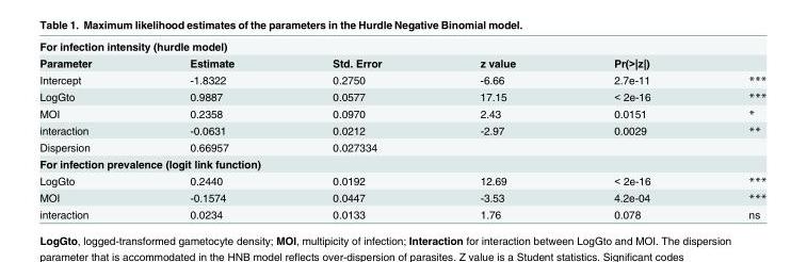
<table><tbody><tr><td colspan="6">For infection intensity (hurdle model)</td></tr><tr><td>Parameter</td><td>Estimate</td><td>Std. Error</td><td>z value</td><td>Pr(&gt;|z|)</td><td></td></tr><tr><td>Intercept</td><td>-1.8322</td><td>0.2750</td><td>-6.66</td><td>2.7e-11</td><td>***</td></tr><tr><td>LogGto</td><td>0.9887</td><td>0.0577</td><td>17.15</td><td>&lt; 2e-16</td><td>***</td></tr><tr><td>MOI</td><td>0.2358</td><td>0.0970</td><td>2.43</td><td>0.0151</td><td>*</td></tr><tr><td>interaction</td><td>-0.0631</td><td>0.0212</td><td>-2.97</td><td>0.0029</td><td>**</td></tr><tr><td>Dispersion</td><td>0.66957</td><td>0.027334</td><td></td><td></td><td></td></tr><tr><td colspan="6">For infection prevalence (logit link function)</td></tr><tr><td>LogGto</td><td>0.2440</td><td>0.0192</td><td>12.69</td><td>&lt; 2e-16</td><td>***</td></tr><tr><td>MOI</td><td>-0.1574</td><td>0.0447</td><td>-3.53</td><td>4.2e-04</td><td>***</td></tr><tr><td>interaction</td><td>0.0234</td><td>0.0133</td><td>1.76</td><td>0.078</td><td>ns</td></tr></tbody></table>